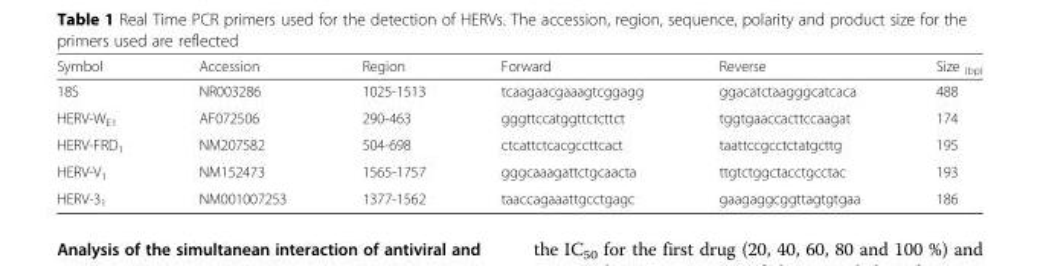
<table><thead><tr><td>Symbol</td><td>Accession</td><td>Region</td><td>Forward</td><td>Reverse</td><td>Size <sub>(bp)</sub></td></tr></thead><tbody><tr><td>18S</td><td>NR003286</td><td>1025-1513</td><td>tcaagaacgaaagtcggagg</td><td>ggacatctaagggcatcaca</td><td>488</td></tr><tr><td>HERV-W<sub>E1</sub></td><td>AF072506</td><td>290-463</td><td>gggttccatggttctcttct</td><td>tggtgaaccacttccaagat</td><td>174</td></tr><tr><td>HERV-FRD<sub>1</sub></td><td>NM207582</td><td>504-698</td><td>ctcattctcacgccttcact</td><td>taattccgcctctatgcttg</td><td>195</td></tr><tr><td>HERV-V<sub>1</sub></td><td>NM152473</td><td>1565-1757</td><td>gggcaaagattctgcaacta</td><td>ttgtctggctacctgcctac</td><td>193</td></tr><tr><td>HERV-3<sub>1</sub></td><td>NM001007253</td><td>1377-1562</td><td>taaccagaaattgcctgagc</td><td>gaagaggcggttagtgtgaa</td><td>186</td></tr></tbody></table>